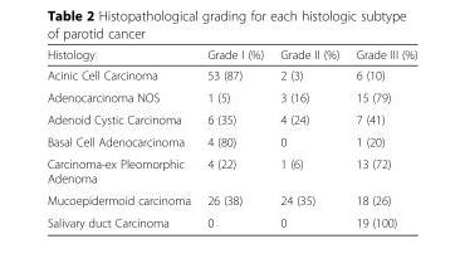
<table><thead><tr><td>Histology</td><td>Grade I (%)</td><td>Grade II (%)</td><td>Grade III (%)</td></tr></thead><tbody><tr><td>Acinic Cell Carcinoma</td><td>53 (87)</td><td>2 (3)</td><td>6 (10)</td></tr><tr><td>Adenocarcinoma NOS</td><td>1 (5)</td><td>3 (16)</td><td>15 (79)</td></tr><tr><td>Adenoid Cystic Carcinoma</td><td>6 (35)</td><td>4 (24)</td><td>7 (41)</td></tr><tr><td>Basal Cell Adenocarcinoma</td><td>4 (80)</td><td>0</td><td>1 (20)</td></tr><tr><td>Carcinoma-ex Pleomorphic Adenoma</td><td>4 (22)</td><td>1 (6)</td><td>13 (72)</td></tr><tr><td>Mucoepidermoid carcinoma</td><td>26 (38)</td><td>24 (35)</td><td>18 (26)</td></tr><tr><td>Salivary duct Carcinoma</td><td>0</td><td>0</td><td>19 (100)</td></tr></tbody></table>